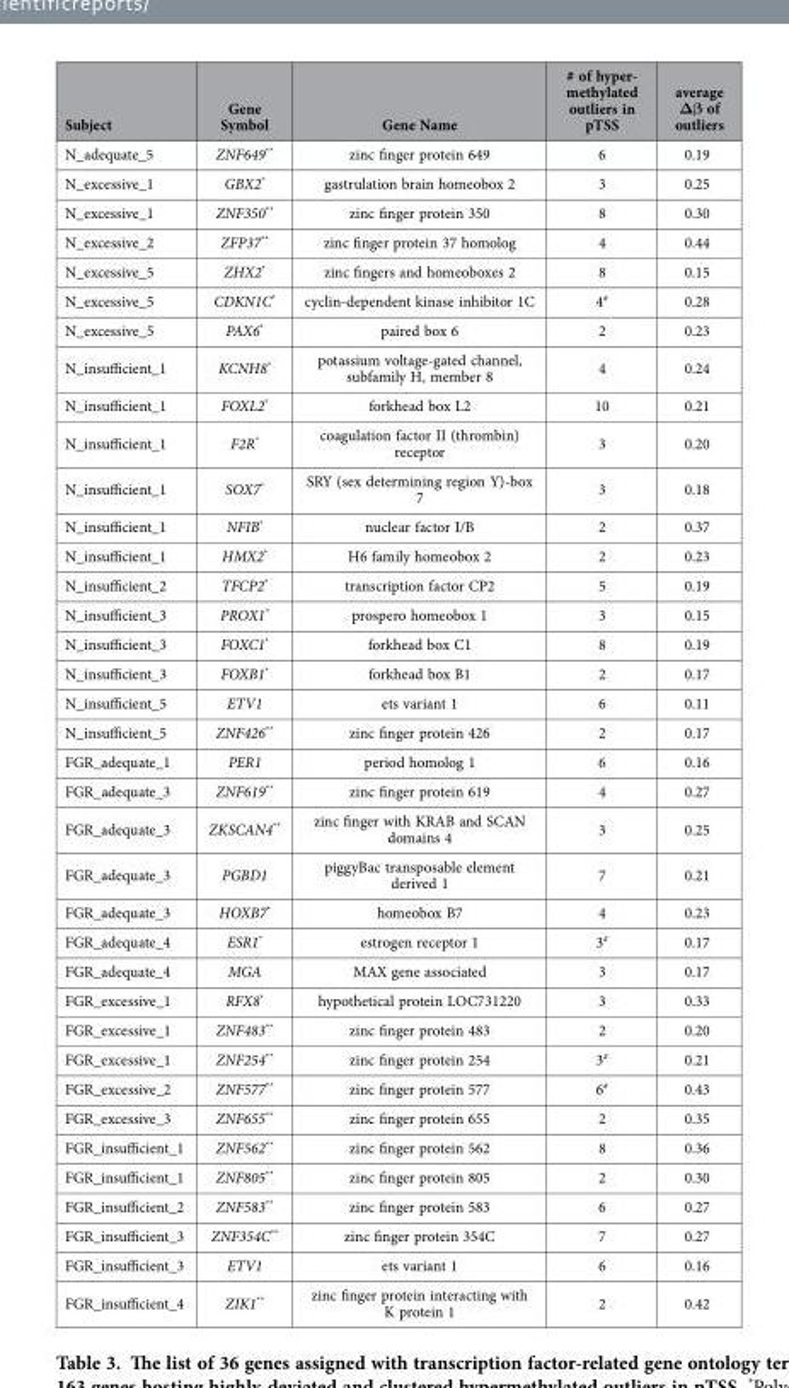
<table><thead><tr><td>Subject</td><td>Gene Symbol</td><td>Gene Name</td><td># of hyper- methylated outliers in pTSS</td><td>average Δβ of outliers</td></tr></thead><tbody><tr><td>N_adequate_5</td><td>ZNF649**</td><td>zinc finger protein 649</td><td>6</td><td>0.19</td></tr><tr><td>N_excessive_1</td><td>GBX2*</td><td>gastrulation brain homeobox 2</td><td>3</td><td>0.25</td></tr><tr><td>N_excessive_1</td><td>ZNF350**</td><td>zinc finger protein 350</td><td>8</td><td>0.30</td></tr><tr><td>N_excessive_2</td><td>ZFP37**</td><td>zinc finger protein 37 homolog</td><td>4</td><td>0.44</td></tr><tr><td>N_excessive_5</td><td>ZHX2*</td><td>zinc fingers and homeoboxes 2</td><td>8</td><td>0.15</td></tr><tr><td>N_excessive_5</td><td>CDKN1C*</td><td>cyclin-dependent kinase inhibitor 1C</td><td>4#</td><td>0.28</td></tr><tr><td>N_excessive_5</td><td>PAX6*</td><td>paired box 6</td><td>2</td><td>0.23</td></tr><tr><td>N_insufficient_1</td><td>KCNH8*</td><td>potassium voltage-gated channel, subfamily H, member 8</td><td>4</td><td>0.24</td></tr><tr><td>N_insufficient_1</td><td>FOXL2*</td><td>forkhead box L2</td><td>10</td><td>0.21</td></tr><tr><td>N_insufficient_1</td><td>F2R*</td><td>coagulation factor II (thrombin) receptor</td><td>3</td><td>0.20</td></tr><tr><td>N_insufficient_1</td><td>SOX7*</td><td>SRY (sex determining region Y)-box 7</td><td>3</td><td>0.18</td></tr><tr><td>N_insufficient_1</td><td>NFIB*</td><td>nuclear factor I/B</td><td>2</td><td>0.37</td></tr><tr><td>N_insufficient_1</td><td>HMX2*</td><td>H6 family homeobox 2</td><td>2</td><td>0.23</td></tr><tr><td>N_insufficient_2</td><td>TFCP2*</td><td>transcription factor CP2</td><td>5</td><td>0.19</td></tr><tr><td>N_insufficient_3</td><td>PROX1*</td><td>prospero homeobox 1</td><td>3</td><td>0.15</td></tr><tr><td>N_insufficient_3</td><td>FOXC1*</td><td>forkhead box C1</td><td>8</td><td>0.19</td></tr><tr><td>N_insufficient_3</td><td>FOXB1*</td><td>forkhead box B1</td><td>2</td><td>0.17</td></tr><tr><td>N_insufficient_5</td><td>ETV1</td><td>ets variant 1</td><td>6</td><td>0.11</td></tr><tr><td>N_insufficient_5</td><td>ZNF426**</td><td>zinc finger protein 426</td><td>2</td><td>0.17</td></tr><tr><td>FGR_adequate_1</td><td>PER1</td><td>period homolog 1</td><td>6</td><td>0.16</td></tr><tr><td>FGR_adequate_3</td><td>ZNF619**</td><td>zinc finger protein 619</td><td>4</td><td>0.27</td></tr><tr><td>FGR_adequate_3</td><td>ZKSCAN4**</td><td>zinc finger with KRAB and SCAN domains 4</td><td>3</td><td>0.25</td></tr><tr><td>FGR_adequate_3</td><td>PGBD1</td><td>piggyBac transposable element derived 1</td><td>7</td><td>0.21</td></tr><tr><td>FGR_adequate_3</td><td>HOXB7*</td><td>homeobox B7</td><td>4</td><td>0.23</td></tr><tr><td>FGR_adequate_4</td><td>ESR1*</td><td>estrogen receptor 1</td><td>3#</td><td>0.17</td></tr><tr><td>FGR_adequate_4</td><td>MGA</td><td>MAX gene associated</td><td>3</td><td>0.17</td></tr><tr><td>FGR_excessive_1</td><td>RFX8*</td><td>hypothetical protein LOC731220</td><td>3</td><td>0.33</td></tr><tr><td>FGR_excessive_1</td><td>ZNF483**</td><td>zinc finger protein 483</td><td>2</td><td>0.20</td></tr><tr><td>FGR_excessive_1</td><td>ZNF254**</td><td>zinc finger protein 254</td><td>3#</td><td>0.21</td></tr><tr><td>FGR_excessive_2</td><td>ZNF577**</td><td>zinc finger protein 577</td><td>6#</td><td>0.43</td></tr><tr><td>FGR_excessive_3</td><td>ZNF655**</td><td>zinc finger protein 655</td><td>2</td><td>0.35</td></tr><tr><td>FGR_insufficient_1</td><td>ZNF562**</td><td>zinc finger protein 562</td><td>8</td><td>0.36</td></tr><tr><td>FGR_insufficient_1</td><td>ZNF805**</td><td>zinc finger protein 805</td><td>2</td><td>0.30</td></tr><tr><td>FGR_insufficient_2</td><td>ZNF583**</td><td>zinc finger protein 583</td><td>6</td><td>0.27</td></tr><tr><td>FGR_insufficient_3</td><td>ZNF354C**</td><td>zinc finger protein 354C</td><td>7</td><td>0.27</td></tr><tr><td>FGR_insufficient_3</td><td>ETV1</td><td>ets variant 1</td><td>6</td><td>0.16</td></tr><tr><td>FGR_insufficient_4</td><td>ZIK1**</td><td>zinc finger protein interacting with K protein 1</td><td>2</td><td>0.42</td></tr></tbody></table>